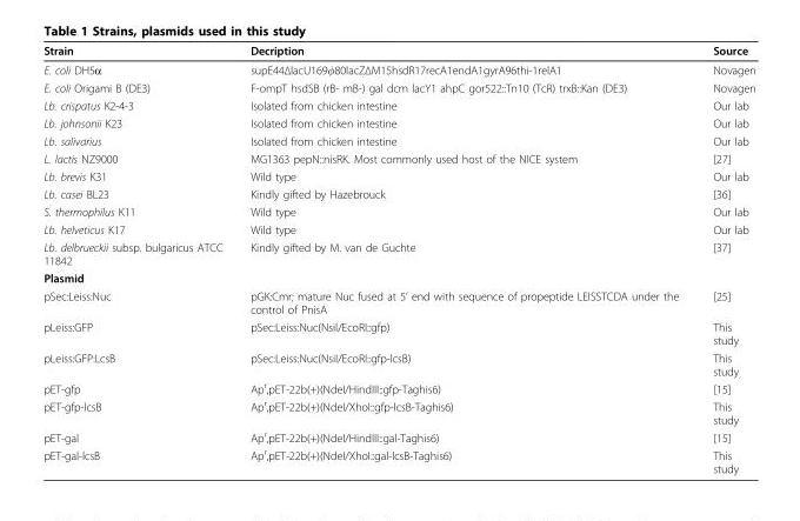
<table><thead><tr><td>Strain</td><td>Decription</td><td>Source</td></tr></thead><tbody><tr><td>E. coli DH5α</td><td>supE44ΔlacU169φ80lacZΔM15hsdR17recA1endA1gyrA96thi-1relA1</td><td>Novagen</td></tr><tr><td>E. coli Origami B (DE3)</td><td>F-ompT hsdSB (rB- mB-) gal dcm lacY1 ahpC gor522::Tn10 (TcR) trxB::Kan (DE3)</td><td>Novagen</td></tr><tr><td>Lb. crispatus K2-4-3</td><td>Isolated from chicken intestine</td><td>Our lab</td></tr><tr><td>Lb. johnsonii K23</td><td>Isolated from chicken intestine</td><td>Our lab</td></tr><tr><td>Lb. salivarius</td><td>Isolated from chicken intestine</td><td>Our lab</td></tr><tr><td>L. lactis NZ9000</td><td>MG1363 pepN::nisRK. Most commonly used host of the NICE system</td><td>[27]</td></tr><tr><td>Lb. brevis K31</td><td>Wild type</td><td>Our lab</td></tr><tr><td>Lb. casei BL23</td><td>Kindly gifted by Hazebrouck</td><td>[36]</td></tr><tr><td>S. thermophilus K11</td><td>Wild type</td><td>Our lab</td></tr><tr><td>Lb. helveticus K17</td><td>Wild type</td><td>Our lab</td></tr><tr><td>Lb. delbrueckii subsp. bulgaricus ATCC 11842</td><td>Kindly gifted by M. van de Guchte</td><td>[37]</td></tr><tr><td colspan="3">Plasmid</td></tr><tr><td>pSec:Leiss:Nuc</td><td>pGK:Cmr; mature Nuc fused at 5’ end with sequence of propeptide LEISSTCDA under the control of PnisA</td><td>[25]</td></tr><tr><td>pLeiss:GFP</td><td>pSec:Leiss:Nuc(NsiI/EcoRI::gfp)</td><td>This study</td></tr><tr><td>pLeiss:GFP:LcsB</td><td>pSec:Leiss:Nuc(NsiI/EcoRI::gfp-lcsB)</td><td>This study</td></tr><tr><td>pET-gfp</td><td>Ap<sup>r</sup>,pET-22b(+)(NdeI/HindIII::gfp-Taghis6)</td><td>[15]</td></tr><tr><td>pET-gfp-lcsB</td><td>Ap<sup>r</sup>,pET-22b(+)(NdeI/XhoI::gfp-lcsB-Taghis6)</td><td>This study</td></tr><tr><td>pET-gal</td><td>Ap<sup>r</sup>,pET-22b(+)(NdeI/HindIII::gal-Taghis6)</td><td>[15]</td></tr><tr><td>pET-gal-lcsB</td><td>Ap<sup>r</sup>,pET-22b(+)(NdeI/XhoI::gal-lcsB-Taghis6)</td><td>This study</td></tr></tbody></table>